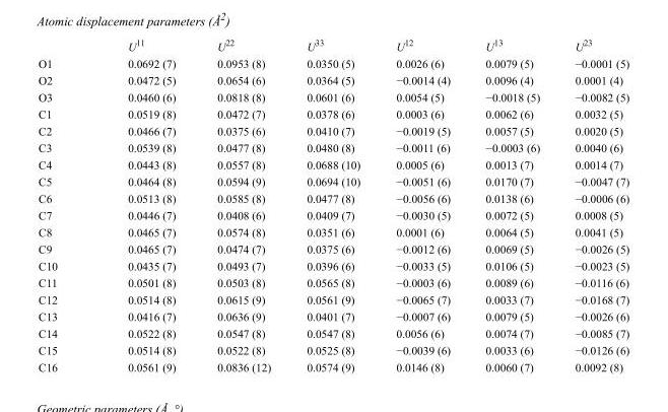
<table><thead><tr><td></td><td>U<sup>11</sup></td><td>U<sup>22</sup></td><td>U<sup>33</sup></td><td>U<sup>12</sup></td><td>U<sup>13</sup></td><td>U<sup>23</sup></td></tr></thead><tbody><tr><td>O1</td><td>0.0692 (7)</td><td>0.0953 (8)</td><td>0.0350 (5)</td><td>0.0026 (6)</td><td>0.0079 (5)</td><td>−0.0001 (5)</td></tr><tr><td>O2</td><td>0.0472 (5)</td><td>0.0654 (6)</td><td>0.0364 (5)</td><td>−0.0014 (4)</td><td>0.0096 (4)</td><td>0.0001 (4)</td></tr><tr><td>O3</td><td>0.0460 (6)</td><td>0.0818 (8)</td><td>0.0601 (6)</td><td>0.0054 (5)</td><td>−0.0018 (5)</td><td>−0.0082 (5)</td></tr><tr><td>C1</td><td>0.0519 (8)</td><td>0.0472 (7)</td><td>0.0378 (6)</td><td>0.0003 (6)</td><td>0.0062 (6)</td><td>0.0032 (5)</td></tr><tr><td>C2</td><td>0.0466 (7)</td><td>0.0375 (6)</td><td>0.0410 (7)</td><td>−0.0019 (5)</td><td>0.0057 (5)</td><td>0.0020 (5)</td></tr><tr><td>C3</td><td>0.0539 (8)</td><td>0.0477 (8)</td><td>0.0480 (8)</td><td>−0.0011 (6)</td><td>−0.0003 (6)</td><td>0.0040 (6)</td></tr><tr><td>C4</td><td>0.0443 (8)</td><td>0.0557 (8)</td><td>0.0688 (10)</td><td>0.0005 (6)</td><td>0.0013 (7)</td><td>0.0014 (7)</td></tr><tr><td>C5</td><td>0.0464 (8)</td><td>0.0594 (9)</td><td>0.0694 (10)</td><td>−0.0051 (6)</td><td>0.0170 (7)</td><td>−0.0047 (7)</td></tr><tr><td>C6</td><td>0.0513 (8)</td><td>0.0585 (8)</td><td>0.0477 (8)</td><td>−0.0056 (6)</td><td>0.0138 (6)</td><td>−0.0006 (6)</td></tr><tr><td>C7</td><td>0.0446 (7)</td><td>0.0408 (6)</td><td>0.0409 (7)</td><td>−0.0030 (5)</td><td>0.0072 (5)</td><td>0.0008 (5)</td></tr><tr><td>C8</td><td>0.0465 (7)</td><td>0.0574 (8)</td><td>0.0351 (6)</td><td>0.0001 (6)</td><td>0.0064 (5)</td><td>0.0041 (5)</td></tr><tr><td>C9</td><td>0.0465 (7)</td><td>0.0474 (7)</td><td>0.0375 (6)</td><td>−0.0012 (6)</td><td>0.0069 (5)</td><td>−0.0026 (5)</td></tr><tr><td>C10</td><td>0.0435 (7)</td><td>0.0493 (7)</td><td>0.0396 (6)</td><td>−0.0033 (5)</td><td>0.0106 (5)</td><td>−0.0023 (5)</td></tr><tr><td>C11</td><td>0.0501 (8)</td><td>0.0503 (8)</td><td>0.0565 (8)</td><td>−0.0003 (6)</td><td>0.0089 (6)</td><td>−0.0116 (6)</td></tr><tr><td>C12</td><td>0.0514 (8)</td><td>0.0615 (9)</td><td>0.0561 (9)</td><td>−0.0065 (7)</td><td>0.0033 (7)</td><td>−0.0168 (7)</td></tr><tr><td>C13</td><td>0.0416 (7)</td><td>0.0636 (9)</td><td>0.0401 (7)</td><td>−0.0007 (6)</td><td>0.0079 (5)</td><td>−0.0026 (6)</td></tr><tr><td>C14</td><td>0.0522 (8)</td><td>0.0547 (8)</td><td>0.0547 (8)</td><td>0.0056 (6)</td><td>0.0074 (7)</td><td>−0.0085 (7)</td></tr><tr><td>C15</td><td>0.0514 (8)</td><td>0.0522 (8)</td><td>0.0525 (8)</td><td>−0.0039 (6)</td><td>0.0033 (6)</td><td>−0.0126 (6)</td></tr><tr><td>C16</td><td>0.0561 (9)</td><td>0.0836 (12)</td><td>0.0574 (9)</td><td>0.0146 (8)</td><td>0.0060 (7)</td><td>0.0092 (8)</td></tr></tbody></table>